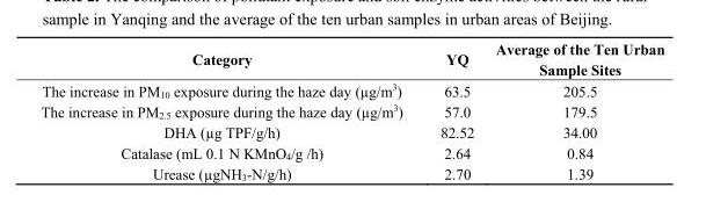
<table><thead><tr><td>Category</td><td>YQ</td><td>Average of the Ten Urban Sample Sites</td></tr></thead><tbody><tr><td>The increase in PM<sub>10</sub> exposure during the haze day (µg/m<sup>3</sup>)</td><td>63.5</td><td>205.5</td></tr><tr><td>The increase in PM<sub>2.5</sub> exposure during the haze day (µg/m<sup>3</sup>)</td><td>57.0</td><td>179.5</td></tr><tr><td>DHA (µg TPF/g/h)</td><td>82.52</td><td>34.00</td></tr><tr><td>Catalase (mL 0.1 N KMnO<sub>4</sub>/g /h)</td><td>2.64</td><td>0.84</td></tr><tr><td>Urease (µgNH<sub>3</sub>-N/g/h)</td><td>2.70</td><td>1.39</td></tr></tbody></table>